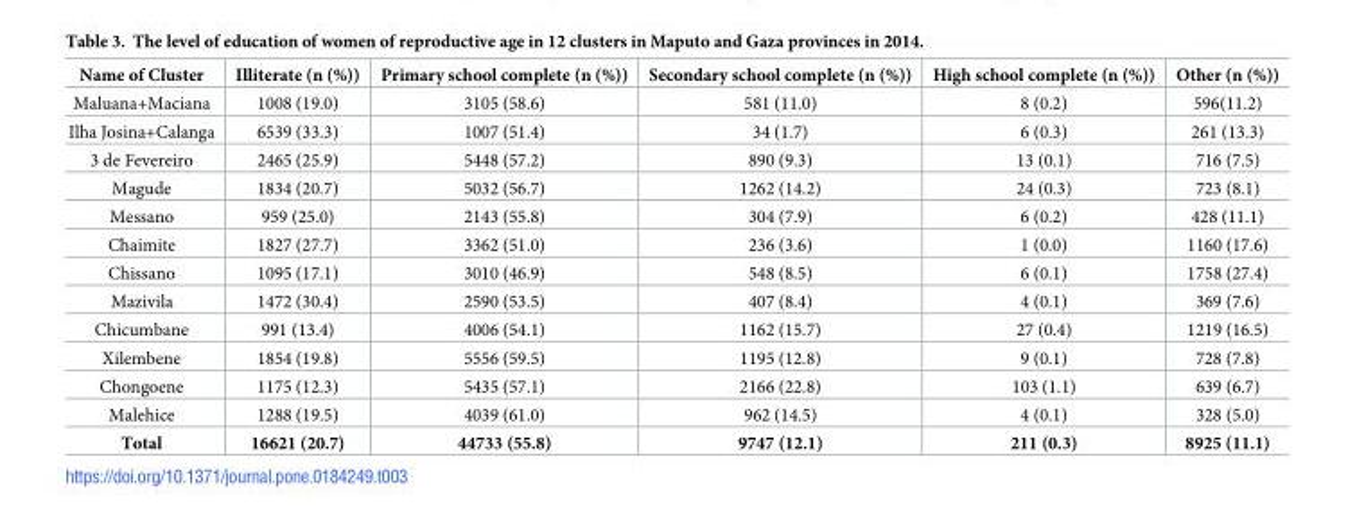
<table><thead><tr><td>Name of Cluster</td><td>Illiterate (n (%))</td><td>Primary school complete (n (%))</td><td>Secondary school complete (n (%))</td><td>High school complete (n (%))</td><td>Other (n (%))</td></tr></thead><tbody><tr><td>Maluana+Maciana</td><td>1008 (19.0)</td><td>3105 (58.6)</td><td>581 (11.0)</td><td>8 (0.2)</td><td>596(11.2)</td></tr><tr><td>Ilha Josina+Calanga</td><td>6539 (33.3)</td><td>1007 (51.4)</td><td>34 (1.7)</td><td>6 (0.3)</td><td>261 (13.3)</td></tr><tr><td>3 de Fevereiro</td><td>2465 (25.9)</td><td>5448 (57.2)</td><td>890 (9.3)</td><td>13 (0.1)</td><td>716 (7.5)</td></tr><tr><td>Magude</td><td>1834 (20.7)</td><td>5032 (56.7)</td><td>1262 (14.2)</td><td>24 (0.3)</td><td>723 (8.1)</td></tr><tr><td>Messano</td><td>959 (25.0)</td><td>2143 (55.8)</td><td>304 (7.9)</td><td>6 (0.2)</td><td>428 (11.1)</td></tr><tr><td>Chaimite</td><td>1827 (27.7)</td><td>3362 (51.0)</td><td>236 (3.6)</td><td>1 (0.0)</td><td>1160 (17.6)</td></tr><tr><td>Chissano</td><td>1095 (17.1)</td><td>3010 (46.9)</td><td>548 (8.5)</td><td>6 (0.1)</td><td>1758 (27.4)</td></tr><tr><td>Mazivila</td><td>1472 (30.4)</td><td>2590 (53.5)</td><td>407 (8.4)</td><td>4 (0.1)</td><td>369 (7.6)</td></tr><tr><td>Chicumbane</td><td>991 (13.4)</td><td>4006 (54.1)</td><td>1162 (15.7)</td><td>27 (0.4)</td><td>1219 (16.5)</td></tr><tr><td>Xilembene</td><td>1854 (19.8)</td><td>5556 (59.5)</td><td>1195 (12.8)</td><td>9 (0.1)</td><td>728 (7.8)</td></tr><tr><td>Chongoene</td><td>1175 (12.3)</td><td>5435 (57.1)</td><td>2166 (22.8)</td><td>103 (1.1)</td><td>639 (6.7)</td></tr><tr><td>Malehice</td><td>1288 (19.5)</td><td>4039 (61.0)</td><td>962 (14.5)</td><td>4 (0.1)</td><td>328 (5.0)</td></tr><tr><td>Total</td><td>16621 (20.7)</td><td>44733 (55.8)</td><td>9747 (12.1)</td><td>211 (0.3)</td><td>8925 (11.1)</td></tr></tbody></table>